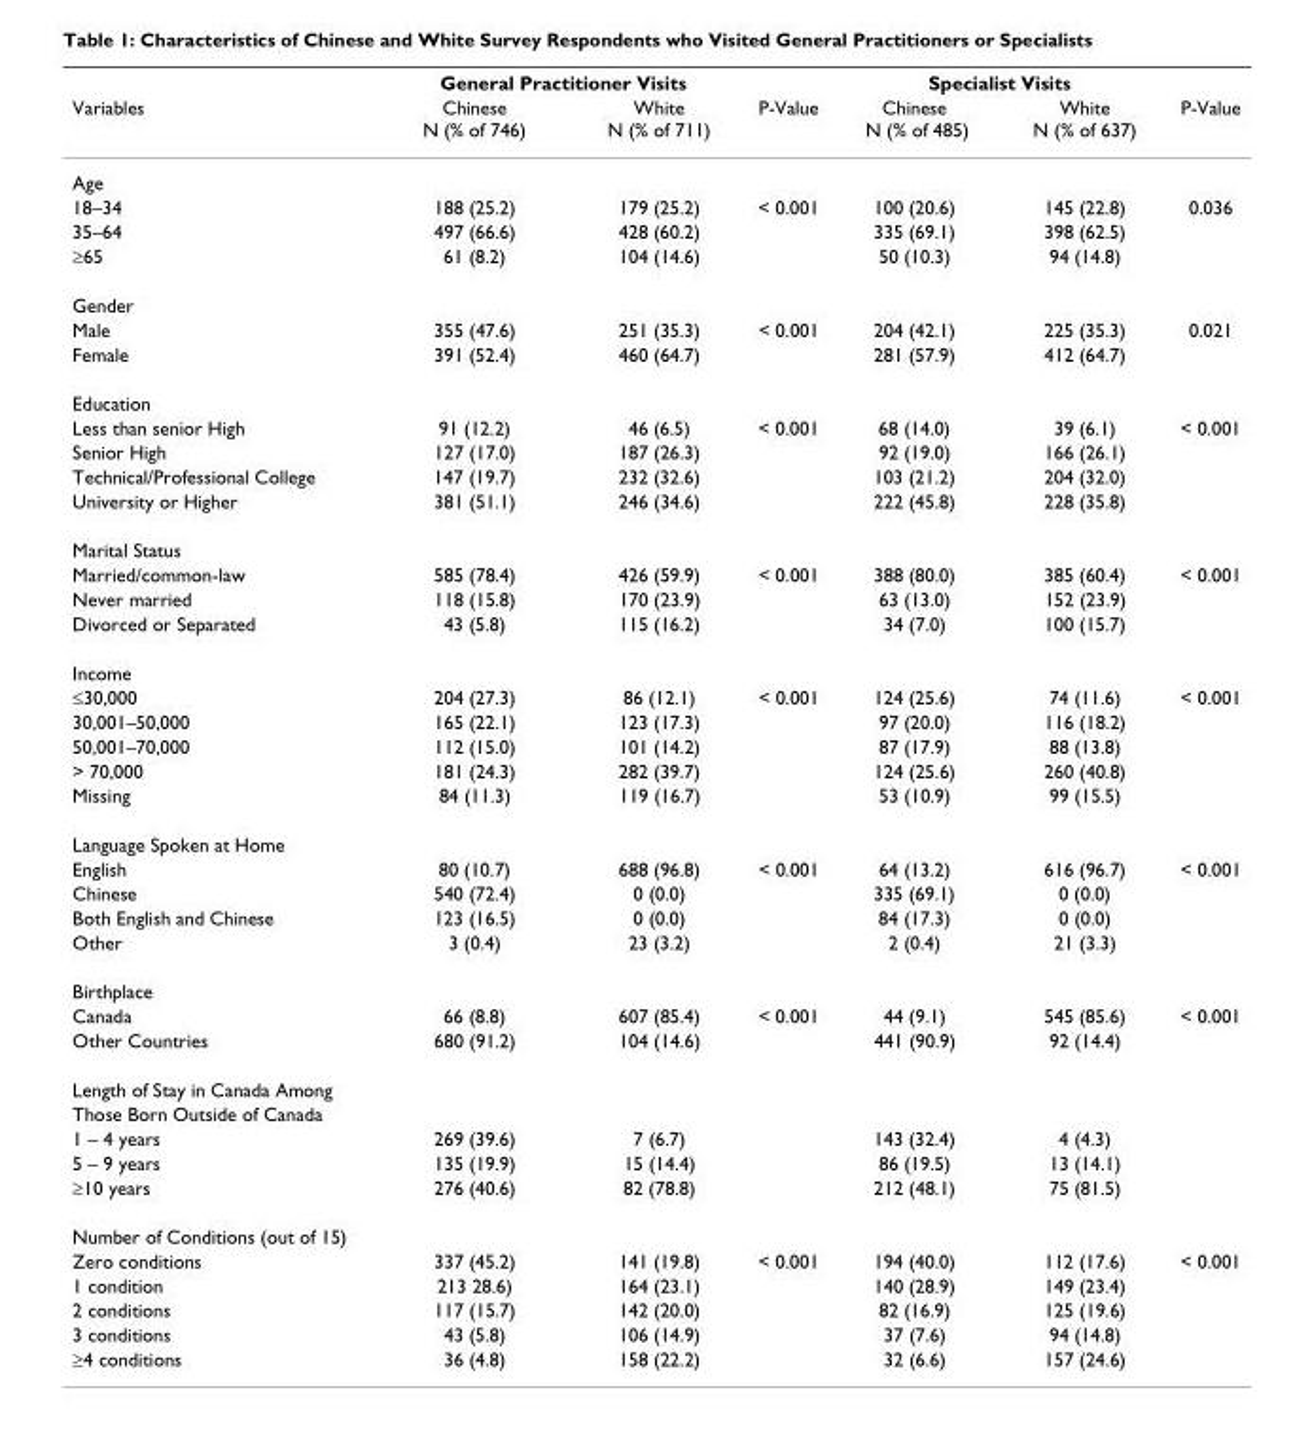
<table><thead><tr><td rowspan="2">Variables</td><td colspan="2">General Practitioner Visits</td><td rowspan="2">P-Value</td><td colspan="2">Specialist Visits</td><td rowspan="2">P-Value</td></tr><tr><td>Chinese N (% of 746)</td><td>White N (% of 711)</td><td>Chinese N (% of 485)</td><td>White N (% of 637)</td></tr></thead><tbody><tr><td colspan="7">Age</td></tr><tr><td>18–34</td><td>188 (25.2)</td><td>179 (25.2)</td><td>&lt; 0.001</td><td>100 (20.6)</td><td>145 (22.8)</td><td>0.036</td></tr><tr><td>35–64</td><td>497 (66.6)</td><td>428 (60.2)</td><td></td><td>335 (69.1)</td><td>398 (62.5)</td><td></td></tr><tr><td>≥65</td><td>61 (8.2)</td><td>104 (14.6)</td><td></td><td>50 (10.3)</td><td>94 (14.8)</td><td></td></tr><tr><td colspan="7">Gender</td></tr><tr><td>Male</td><td>355 (47.6)</td><td>251 (35.3)</td><td>&lt; 0.001</td><td>204 (42.1)</td><td>225 (35.3)</td><td>0.021</td></tr><tr><td>Female</td><td>391 (52.4)</td><td>460 (64.7)</td><td></td><td>281 (57.9)</td><td>412 (64.7)</td><td></td></tr><tr><td colspan="7">Education</td></tr><tr><td>Less than senior High</td><td>91 (12.2)</td><td>46 (6.5)</td><td>&lt; 0.001</td><td>68 (14.0)</td><td>39 (6.1)</td><td>&lt; 0.001</td></tr><tr><td>Senior High</td><td>127 (17.0)</td><td>187 (26.3)</td><td></td><td>92 (19.0)</td><td>166 (26.1)</td><td></td></tr><tr><td>Technical/Professional College</td><td>147 (19.7)</td><td>232 (32.6)</td><td></td><td>103 (21.2)</td><td>204 (32.0)</td><td></td></tr><tr><td>University or Higher</td><td>381 (51.1)</td><td>246 (34.6)</td><td></td><td>222 (45.8)</td><td>228 (35.8)</td><td></td></tr><tr><td colspan="7">Marital Status</td></tr><tr><td>Married/common-law</td><td>585 (78.4)</td><td>426 (59.9)</td><td>&lt; 0.001</td><td>388 (80.0)</td><td>385 (60.4)</td><td>&lt; 0.001</td></tr><tr><td>Never married</td><td>118 (15.8)</td><td>170 (23.9)</td><td></td><td>63 (13.0)</td><td>152 (23.9)</td><td></td></tr><tr><td>Divorced or Separated</td><td>43 (5.8)</td><td>115 (16.2)</td><td></td><td>34 (7.0)</td><td>100 (15.7)</td><td></td></tr><tr><td colspan="7">Income</td></tr><tr><td>≤30,000</td><td>204 (27.3)</td><td>86 (12.1)</td><td>&lt; 0.001</td><td>124 (25.6)</td><td>74 (11.6)</td><td>&lt; 0.001</td></tr><tr><td>30,001–50,000</td><td>165 (22.1)</td><td>123 (17.3)</td><td></td><td>97 (20.0)</td><td>116 (18.2)</td><td></td></tr><tr><td>50,001–70,000</td><td>112 (15.0)</td><td>101 (14.2)</td><td></td><td>87 (17.9)</td><td>88 (13.8)</td><td></td></tr><tr><td>&gt; 70,000</td><td>181 (24.3)</td><td>282 (39.7)</td><td></td><td>124 (25.6)</td><td>260 (40.8)</td><td></td></tr><tr><td>Missing</td><td>84 (11.3)</td><td>119 (16.7)</td><td></td><td>53 (10.9)</td><td>99 (15.5)</td><td></td></tr><tr><td colspan="7">Language Spoken at Home</td></tr><tr><td>English</td><td>80 (10.7)</td><td>688 (96.8)</td><td>&lt; 0.001</td><td>64 (13.2)</td><td>616 (96.7)</td><td>&lt; 0.001</td></tr><tr><td>Chinese</td><td>540 (72.4)</td><td>0 (0.0)</td><td></td><td>335 (69.1)</td><td>0 (0.0)</td><td></td></tr><tr><td>Both English and Chinese</td><td>123 (16.5)</td><td>0 (0.0)</td><td></td><td>84 (17.3)</td><td>0 (0.0)</td><td></td></tr><tr><td>Other</td><td>3 (0.4)</td><td>23 (3.2)</td><td></td><td>2 (0.4)</td><td>21 (3.3)</td><td></td></tr><tr><td colspan="7">Birthplace</td></tr><tr><td>Canada</td><td>66 (8.8)</td><td>607 (85.4)</td><td>&lt; 0.001</td><td>44 (9.1)</td><td>545 (85.6)</td><td>&lt; 0.001</td></tr><tr><td>Other Countries</td><td>680 (91.2)</td><td>104 (14.6)</td><td></td><td>441 (90.9)</td><td>92 (14.4)</td><td></td></tr><tr><td colspan="7">Length of Stay in Canada Among</td></tr><tr><td colspan="7">Those Born Outside of Canada</td></tr><tr><td>1 – 4 years</td><td>269 (39.6)</td><td>7 (6.7)</td><td></td><td>143 (32.4)</td><td>4 (4.3)</td><td></td></tr><tr><td>5 – 9 years</td><td>135 (19.9)</td><td>15 (14.4)</td><td></td><td>86 (19.5)</td><td>13 (14.1)</td><td></td></tr><tr><td>≥10 years</td><td>276 (40.6)</td><td>82 (78.8)</td><td></td><td>212 (48.1)</td><td>75 (81.5)</td><td></td></tr><tr><td colspan="7">Number of Conditions (out of 15)</td></tr><tr><td>Zero conditions</td><td>337 (45.2)</td><td>141 (19.8)</td><td>&lt; 0.001</td><td>194 (40.0)</td><td>112 (17.6)</td><td>&lt; 0.001</td></tr><tr><td>1 condition</td><td>213 28.6)</td><td>164 (23.1)</td><td></td><td>140 (28.9)</td><td>149 (23.4)</td><td></td></tr><tr><td>2 conditions</td><td>117 (15.7)</td><td>142 (20.0)</td><td></td><td>82 (16.9)</td><td>125 (19.6)</td><td></td></tr><tr><td>3 conditions</td><td>43 (5.8)</td><td>106 (14.9)</td><td></td><td>37 (7.6)</td><td>94 (14.8)</td><td></td></tr><tr><td>≥4 conditions</td><td>36 (4.8)</td><td>158 (22.2)</td><td></td><td>32 (6.6)</td><td>157 (24.6)</td><td></td></tr></tbody></table>